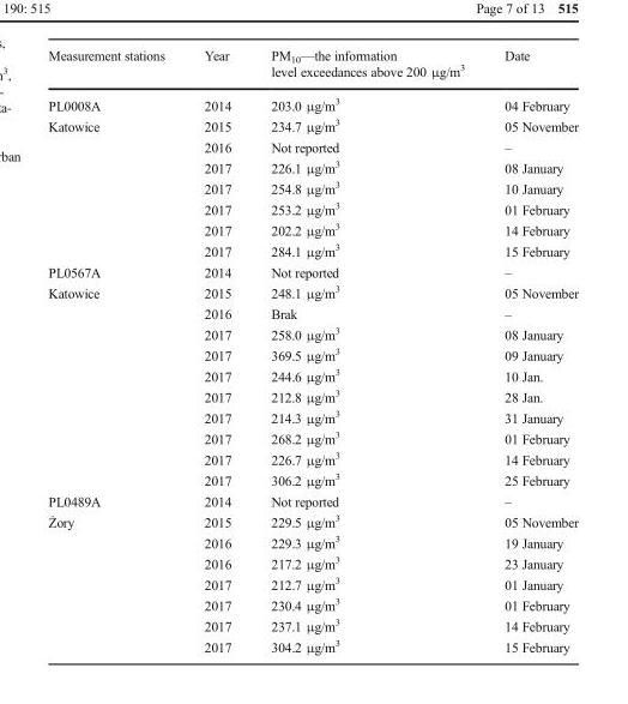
<table><thead><tr><td>Measurement stations</td><td>Year</td><td>PM<sub>10</sub>—the information level exceedances above 200 μg/m<sup>3</sup></td><td>Date</td></tr></thead><tbody><tr><td>PL0008A</td><td>2014</td><td>203.0 μg/m<sup>3</sup></td><td>04 February</td></tr><tr><td rowspan="7">Katowice</td><td>2015</td><td>234.7 μg/m<sup>3</sup></td><td>05 November</td></tr><tr><td>2016</td><td>Not reported</td><td>–</td></tr><tr><td>2017</td><td>226.1 μg/m<sup>3</sup></td><td>08 January</td></tr><tr><td>2017</td><td>254.8 μg/m<sup>3</sup></td><td>10 January</td></tr><tr><td>2017</td><td>253.2 μg/m<sup>3</sup></td><td>01 February</td></tr><tr><td>2017</td><td>202.2 μg/m<sup>3</sup></td><td>14 February</td></tr><tr><td>2017</td><td>284.1 μg/m<sup>3</sup></td><td>15 February</td></tr><tr><td>PL0567A</td><td>2014</td><td>Not reported</td><td>–</td></tr><tr><td rowspan="10">Katowice</td><td>2015</td><td>248.1 μg/m<sup>3</sup></td><td>05 November</td></tr><tr><td>2016</td><td>Brak</td><td>–</td></tr><tr><td>2017</td><td>258.0 μg/m<sup>3</sup></td><td>08 January</td></tr><tr><td>2017</td><td>369.5 μg/m<sup>3</sup></td><td>09 January</td></tr><tr><td>2017</td><td>244.6 μg/m<sup>3</sup></td><td>10 Jan.</td></tr><tr><td>2017</td><td>212.8 μg/m<sup>3</sup></td><td>28 Jan.</td></tr><tr><td>2017</td><td>214.3 μg/m<sup>3</sup></td><td>31 January</td></tr><tr><td>2017</td><td>268.2 μg/m<sup>3</sup></td><td>01 February</td></tr><tr><td>2017</td><td>226.7 μg/m<sup>3</sup></td><td>14 February</td></tr><tr><td>2017</td><td>306.2 μg/m<sup>3</sup></td><td>25 February</td></tr><tr><td>PL0489A</td><td>2014</td><td>Not reported</td><td>–</td></tr><tr><td rowspan="7">Żory</td><td>2015</td><td>229.5 μg/m<sup>3</sup></td><td>05 November</td></tr><tr><td>2016</td><td>229.3 μg/m<sup>3</sup></td><td>19 January</td></tr><tr><td>2016</td><td>217.2 μg/m<sup>3</sup></td><td>23 January</td></tr><tr><td>2017</td><td>212.7 μg/m<sup>3</sup></td><td>01 January</td></tr><tr><td>2017</td><td>230.4 μg/m<sup>3</sup></td><td>01 February</td></tr><tr><td>2017</td><td>237.1 μg/m<sup>3</sup></td><td>14 February</td></tr><tr><td>2017</td><td>304.2 μg/m<sup>3</sup></td><td>15 February</td></tr></tbody></table>